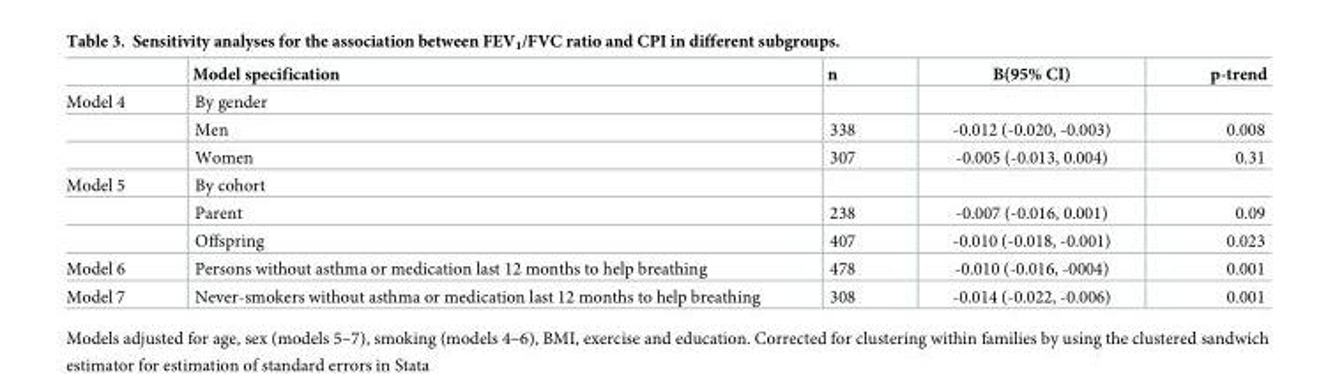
<table><thead><tr><td></td><td>Model specification</td><td>n</td><td>B(95% CI)</td><td>p-trend</td></tr></thead><tbody><tr><td rowspan="3">Model 4</td><td>By gender</td><td></td><td></td><td></td></tr><tr><td>Men</td><td>338</td><td>-0.012 (-0.020, -0.003)</td><td>0.008</td></tr><tr><td>Women</td><td>307</td><td>-0.005 (-0.013, 0.004)</td><td>0.31</td></tr><tr><td rowspan="3">Model 5</td><td>By cohort</td><td></td><td></td><td></td></tr><tr><td>Parent</td><td>238</td><td>-0.007 (-0.016, 0.001)</td><td>0.09</td></tr><tr><td>Offspring</td><td>407</td><td>-0.010 (-0.018, -0.001)</td><td>0.023</td></tr><tr><td>Model 6</td><td>Persons without asthma or medication last 12 months to help breathing</td><td>478</td><td>-0.010 (-0.016, -0004)</td><td>0.001</td></tr><tr><td>Model 7</td><td>Never-smokers without asthma or medication last 12 months to help breathing</td><td>308</td><td>-0.014 (-0.022, -0.006)</td><td>0.001</td></tr></tbody></table>